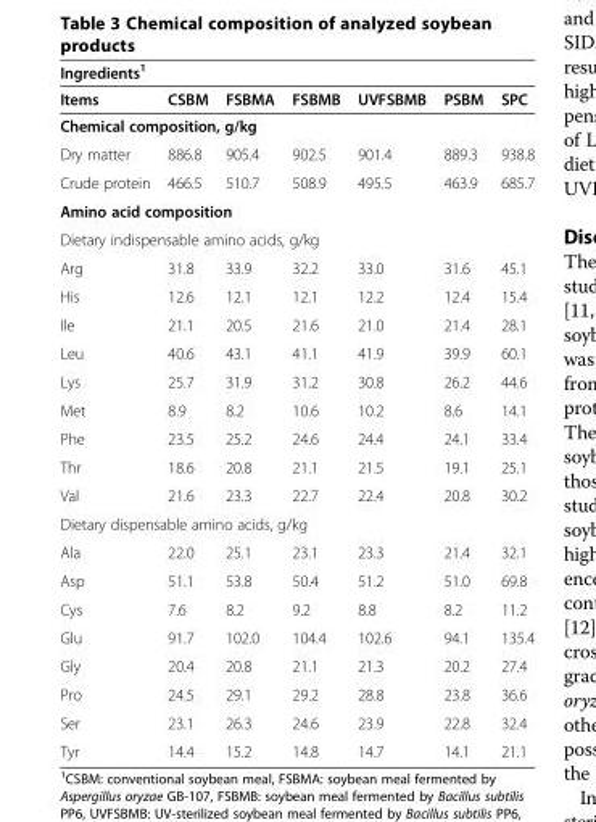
<table><thead><tr><td colspan="7">Ingredients<sup>1</sup></td></tr><tr><td>Items</td><td>CSBM</td><td>FSBMA</td><td>FSBMB</td><td>UVFSBMB</td><td>PSBM</td><td>SPC</td></tr></thead><tbody><tr><td colspan="7">Chemical composition, g/kg</td></tr><tr><td>Dry matter</td><td>886.8</td><td>905.4</td><td>902.5</td><td>901.4</td><td>889.3</td><td>938.8</td></tr><tr><td>Crude protein</td><td>466.5</td><td>510.7</td><td>508.9</td><td>495.5</td><td>463.9</td><td>685.7</td></tr><tr><td colspan="7">Amino acid composition</td></tr><tr><td colspan="7">Dietary indispensable amino acids, g/kg</td></tr><tr><td>Arg</td><td>31.8</td><td>33.9</td><td>32.2</td><td>33.0</td><td>31.6</td><td>45.1</td></tr><tr><td>His</td><td>12.6</td><td>12.1</td><td>12.1</td><td>12.2</td><td>12.4</td><td>15.4</td></tr><tr><td>Ile</td><td>21.1</td><td>20.5</td><td>21.6</td><td>21.0</td><td>21.4</td><td>28.1</td></tr><tr><td>Leu</td><td>40.6</td><td>43.1</td><td>41.1</td><td>41.9</td><td>39.9</td><td>60.1</td></tr><tr><td>Lys</td><td>25.7</td><td>31.9</td><td>31.2</td><td>30.8</td><td>26.2</td><td>44.6</td></tr><tr><td>Met</td><td>8.9</td><td>8.2</td><td>10.6</td><td>10.2</td><td>8.6</td><td>14.1</td></tr><tr><td>Phe</td><td>23.5</td><td>25.2</td><td>24.6</td><td>24.4</td><td>24.1</td><td>33.4</td></tr><tr><td>Thr</td><td>18.6</td><td>20.8</td><td>21.1</td><td>21.5</td><td>19.1</td><td>25.1</td></tr><tr><td>Val</td><td>21.6</td><td>23.3</td><td>22.7</td><td>22.4</td><td>20.8</td><td>30.2</td></tr><tr><td colspan="7">Dietary dispensable amino acids, g/kg</td></tr><tr><td>Ala</td><td>22.0</td><td>25.1</td><td>23.1</td><td>23.3</td><td>21.4</td><td>32.1</td></tr><tr><td>Asp</td><td>51.1</td><td>53.8</td><td>50.4</td><td>51.2</td><td>51.0</td><td>69.8</td></tr><tr><td>Cys</td><td>7.6</td><td>8.2</td><td>9.2</td><td>8.8</td><td>8.2</td><td>11.2</td></tr><tr><td>Glu</td><td>91.7</td><td>102.0</td><td>104.4</td><td>102.6</td><td>94.1</td><td>135.4</td></tr><tr><td>Gly</td><td>20.4</td><td>20.8</td><td>21.1</td><td>21.3</td><td>20.2</td><td>27.4</td></tr><tr><td>Pro</td><td>24.5</td><td>29.1</td><td>29.2</td><td>28.8</td><td>23.8</td><td>36.6</td></tr><tr><td>Ser</td><td>23.1</td><td>26.3</td><td>24.6</td><td>23.9</td><td>22.8</td><td>32.4</td></tr><tr><td>Tyr</td><td>14.4</td><td>15.2</td><td>14.8</td><td>14.7</td><td>14.1</td><td>21.1</td></tr></tbody></table>